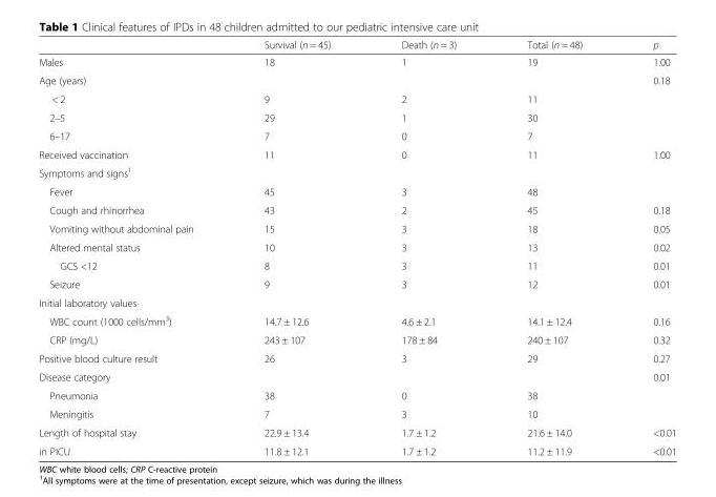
<table><thead><tr><td></td><td>Survival (n = 45)</td><td>Death (n = 3)</td><td>Total (n = 48)</td><td>p</td></tr></thead><tbody><tr><td>Males</td><td>18</td><td>1</td><td>19</td><td>1.00</td></tr><tr><td>Age (years)</td><td></td><td></td><td></td><td>0.18</td></tr><tr><td>&lt; 2</td><td>9</td><td>2</td><td>11</td><td></td></tr><tr><td>2–5</td><td>29</td><td>1</td><td>30</td><td></td></tr><tr><td>6–17</td><td>7</td><td>0</td><td>7</td><td></td></tr><tr><td>Received vaccination</td><td>11</td><td>0</td><td>11</td><td>1.00</td></tr><tr><td colspan="5">Symptoms and signs<sup>1</sup></td></tr><tr><td>Fever</td><td>45</td><td>3</td><td>48</td><td></td></tr><tr><td>Cough and rhinorrhea</td><td>43</td><td>2</td><td>45</td><td>0.18</td></tr><tr><td>Vomiting without abdominal pain</td><td>15</td><td>3</td><td>18</td><td>0.05</td></tr><tr><td>Altered mental status</td><td>10</td><td>3</td><td>13</td><td>0.02</td></tr><tr><td>GCS &lt;12</td><td>8</td><td>3</td><td>11</td><td>0.01</td></tr><tr><td>Seizure</td><td>9</td><td>3</td><td>12</td><td>0.01</td></tr><tr><td colspan="5">Initial laboratory values</td></tr><tr><td>WBC count (1000 cells/mm<sup>3</sup>)</td><td>14.7 ± 12.6</td><td>4.6 ± 2.1</td><td>14.1 ± 12.4</td><td>0.16</td></tr><tr><td>CRP (mg/L)</td><td>243 ± 107</td><td>178 ± 84</td><td>240 ± 107</td><td>0.32</td></tr><tr><td>Positive blood culture result</td><td>26</td><td>3</td><td>29</td><td>0.27</td></tr><tr><td>Disease category</td><td></td><td></td><td></td><td>0.01</td></tr><tr><td>Pneumonia</td><td>38</td><td>0</td><td>38</td><td></td></tr><tr><td>Meningitis</td><td>7</td><td>3</td><td>10</td><td></td></tr><tr><td>Length of hospital stay</td><td>22.9 ± 13.4</td><td>1.7 ± 1.2</td><td>21.6 ± 14.0</td><td>&lt;0.01</td></tr><tr><td>in PICU</td><td>11.8 ± 12.1</td><td>1.7 ± 1.2</td><td>11.2 ± 11.9</td><td>&lt;0.01</td></tr></tbody></table>